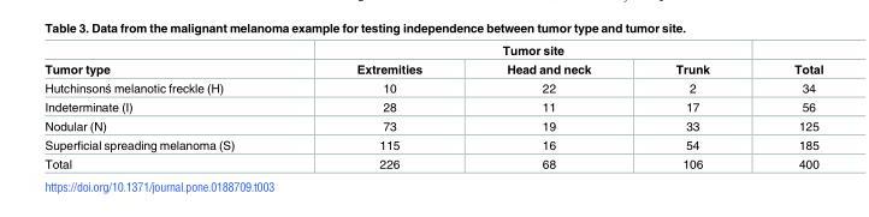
<table><thead><tr><td rowspan="2">Tumor type</td><td colspan="3">Tumor site</td><td rowspan="2">Total</td></tr><tr><td>Extremities</td><td>Head and neck</td><td>Trunk</td></tr></thead><tbody><tr><td>Hutchinsonś melanotic freckle (H)</td><td>10</td><td>22</td><td>2</td><td>34</td></tr><tr><td>Indeterminate (I)</td><td>28</td><td>11</td><td>17</td><td>56</td></tr><tr><td>Nodular (N)</td><td>73</td><td>19</td><td>33</td><td>125</td></tr><tr><td>Superficial spreading melanoma (S)</td><td>115</td><td>16</td><td>54</td><td>185</td></tr><tr><td>Total</td><td>226</td><td>68</td><td>106</td><td>400</td></tr></tbody></table>